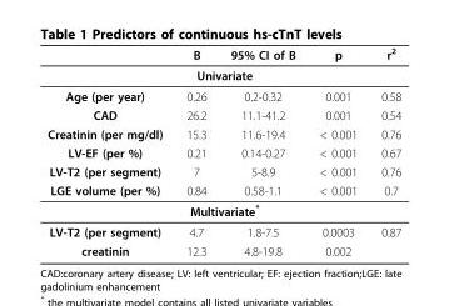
<table><thead><tr><td></td><td>B</td><td>95% CI of B</td><td>p</td><td>r<sup>2</sup></td></tr></thead><tbody><tr><td colspan="5">Univariate</td></tr><tr><td>Age (per year)</td><td>0.26</td><td>0.2-0.32</td><td>0.001</td><td>0.58</td></tr><tr><td>CAD</td><td>26.2</td><td>11.1-41.2</td><td>0.001</td><td>0.54</td></tr><tr><td>Creatinin (per mg/dl)</td><td>15.3</td><td>11.6-19.4</td><td>&lt; 0.001</td><td>0.76</td></tr><tr><td>LV-EF (per %)</td><td>0.21</td><td>0.14-0.27</td><td>&lt; 0.001</td><td>0.67</td></tr><tr><td>LV-T2 (per segment)</td><td>7</td><td>5-8.9</td><td>&lt; 0.001</td><td>0.76</td></tr><tr><td>LGE volume (per %)</td><td>0.84</td><td>0.58-1.1</td><td>&lt; 0.001</td><td>0.7</td></tr><tr><td colspan="5">Multivariate*</td></tr><tr><td>LV-T2 (per segment)</td><td>4.7</td><td>1.8-7.5</td><td>0.0003</td><td>0.87</td></tr><tr><td>creatinin</td><td>12.3</td><td>4.8-19.8</td><td>0.002</td><td></td></tr></tbody></table>